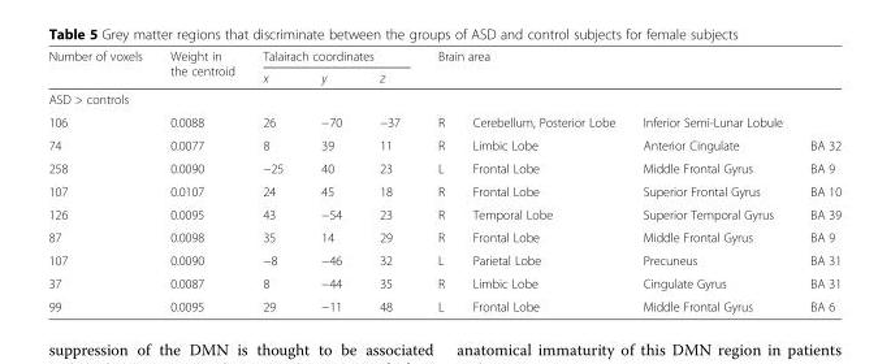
<table><thead><tr><td rowspan="4">Number of voxels ASD &gt; controls 106</td><td rowspan="2">Weight in the centroid</td><td colspan="3">Talairach coordinates</td><td rowspan="2" colspan="4">Brain area</td></tr><tr><td>x</td><td>y</td><td>z</td></tr><tr><td colspan="8"></td></tr><tr><td>0.0088</td><td>26</td><td>−70</td><td>−37</td><td>R</td><td>Cerebellum, Posterior Lobe</td><td>Inferior Semi-Lunar Lobule</td><td></td></tr></thead><tbody><tr><td>74</td><td>0.0077</td><td>8</td><td>39</td><td>11</td><td>R</td><td>Limbic Lobe</td><td>Anterior Cingulate</td><td>BA 32</td></tr><tr><td>258</td><td>0.0090</td><td>−25</td><td>40</td><td>23</td><td>L</td><td>Frontal Lobe</td><td>Middle Frontal Gyrus</td><td>BA 9</td></tr><tr><td>107</td><td>0.0107</td><td>24</td><td>45</td><td>18</td><td>R</td><td>Frontal Lobe</td><td>Superior Frontal Gyrus</td><td>BA 10</td></tr><tr><td>126</td><td>0.0095</td><td>43</td><td>−54</td><td>23</td><td>R</td><td>Temporal Lobe</td><td>Superior Temporal Gyrus</td><td>BA 39</td></tr><tr><td>87</td><td>0.0098</td><td>35</td><td>14</td><td>29</td><td>R</td><td>Frontal Lobe</td><td>Middle Frontal Gyrus</td><td>BA 9</td></tr><tr><td>107</td><td>0.0090</td><td>−8</td><td>−46</td><td>32</td><td>L</td><td>Parietal Lobe</td><td>Precuneus</td><td>BA 31</td></tr><tr><td>37</td><td>0.0087</td><td>8</td><td>−44</td><td>35</td><td>R</td><td>Limbic Lobe</td><td>Cingulate Gyrus</td><td>BA 31</td></tr><tr><td>99</td><td>0.0095</td><td>29</td><td>−11</td><td>48</td><td>L</td><td>Frontal Lobe</td><td>Middle Frontal Gyrus</td><td>BA 6</td></tr></tbody></table>